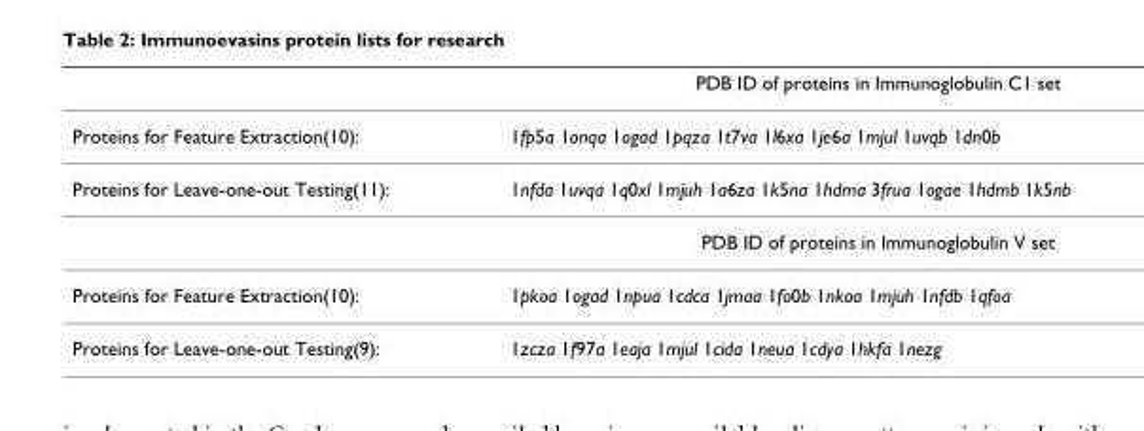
<table><thead><tr><td></td><td>PDB ID of proteins in Immunoglobulin C1 set</td></tr></thead><tbody><tr><td>Proteins for Feature Extraction(10):</td><td>1fp5a 1onqa 1ogad 1pqza 1t7va 1l6xa 1je6a 1mjul 1uvqb 1dn0b</td></tr><tr><td rowspan="2">Proteins for Leave-one-out Testing(11):</td><td>1nfda 1uvqa 1q0xl 1mjuh 1a6za 1k5na 1hdma 3frua 1ogae 1hdmb 1k5nb</td></tr><tr><td>PDB ID of proteins in Immunoglobulin V set</td></tr><tr><td>Proteins for Feature Extraction(10):</td><td>1pkoa 1ogad 1npua 1cdca 1jmaa 1fo0b 1nkoa 1mjuh 1nfdb 1qfoa</td></tr><tr><td>Proteins for Leave-one-out Testing(9):</td><td>1zcza 1f97a 1eaja 1mjul 1cida 1neua 1cdya 1hkfa 1nezg</td></tr></tbody></table>